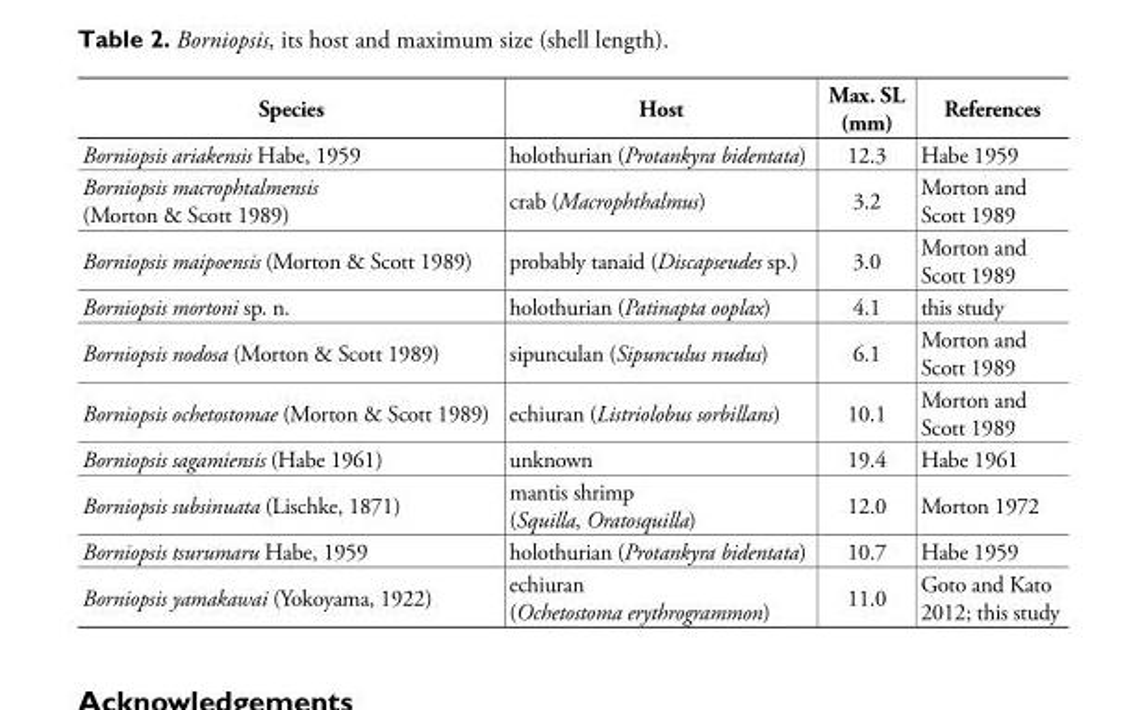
<table><thead><tr><td>Species</td><td>Host</td><td>Max. SL (mm)</td><td>References</td></tr></thead><tbody><tr><td>Borniopsis ariakensis Habe, 1959</td><td>holothurian (Protankyra bidentata)</td><td>12.3</td><td>Habe 1959</td></tr><tr><td>Borniopsis macrophtalmensis (Morton &amp; Scott 1989)</td><td>crab (Macrophthalmus)</td><td>3.2</td><td>Morton and Scott 1989</td></tr><tr><td>Borniopsis maipoensis (Morton &amp; Scott 1989)</td><td>probably tanaid (Discapseudes sp.)</td><td>3.0</td><td>Morton and Scott 1989</td></tr><tr><td>Borniopsis mortoni sp. n.</td><td>holothurian (Patinapta ooplax)</td><td>4.1</td><td>this study</td></tr><tr><td>Borniopsis nodosa (Morton &amp; Scott 1989)</td><td>sipunculan (Sipunculus nudus)</td><td>6.1</td><td>Morton and Scott 1989</td></tr><tr><td>Borniopsis ochetostomae (Morton &amp; Scott 1989)</td><td>echiuran (Listriolobus sorbillans)</td><td>10.1</td><td>Morton and Scott 1989</td></tr><tr><td>Borniopsis sagamiensis (Habe 1961)</td><td>unknown</td><td>19.4</td><td>Habe 1961</td></tr><tr><td>Borniopsis subsinuata (Lischke, 1871)</td><td>mantis shrimp (Squilla, Oratosquilla)</td><td>12.0</td><td>Morton 1972</td></tr><tr><td>Borniopsis tsurumaru Habe, 1959</td><td>holothurian (Protankyra bidentata)</td><td>10.7</td><td>Habe 1959</td></tr><tr><td>Borniopsis yamakawai (Yokoyama, 1922)</td><td>echiuran (Ochetostoma erythrogrammon)</td><td>11.0</td><td>Goto and Kato 2012; this study</td></tr></tbody></table>